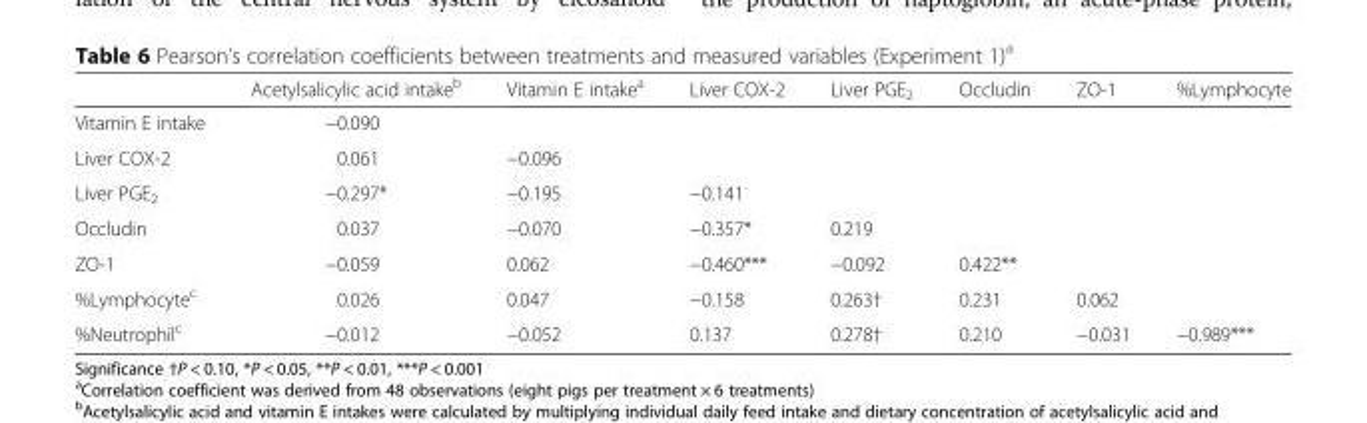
<table><thead><tr><td></td><td>Acetylsalicylic acid intake<sup>b</sup></td><td>Vitamin E intake<sup>a</sup></td><td>Liver COX-2</td><td>Liver PGE<sub>2</sub></td><td>Occludin</td><td>ZO-1</td><td>%Lymphocyte</td></tr></thead><tbody><tr><td>Vitamin E intake</td><td>−0.090</td><td></td><td></td><td></td><td></td><td></td><td></td></tr><tr><td>Liver COX-2</td><td>0.061</td><td>−0.096</td><td></td><td></td><td></td><td></td><td></td></tr><tr><td>Liver PGE<sub>2</sub></td><td>−0.297*</td><td>−0.195</td><td>−0.141</td><td></td><td></td><td></td><td></td></tr><tr><td>Occludin</td><td>0.037</td><td>−0.070</td><td>−0.357*</td><td>0.219</td><td></td><td></td><td></td></tr><tr><td>ZO-1</td><td>−0.059</td><td>0.062</td><td>−0.460***</td><td>−0.092</td><td>0.422**</td><td></td><td></td></tr><tr><td>%Lymphocyte<sup>c</sup></td><td>0.026</td><td>0.047</td><td>−0.158</td><td>0.263†</td><td>0.231</td><td>0.062</td><td></td></tr><tr><td>%Neutrophil<sup>c</sup></td><td>−0.012</td><td>−0.052</td><td>0.137</td><td>0.278†</td><td>0.210</td><td>−0.031</td><td>−0.989***</td></tr></tbody></table>